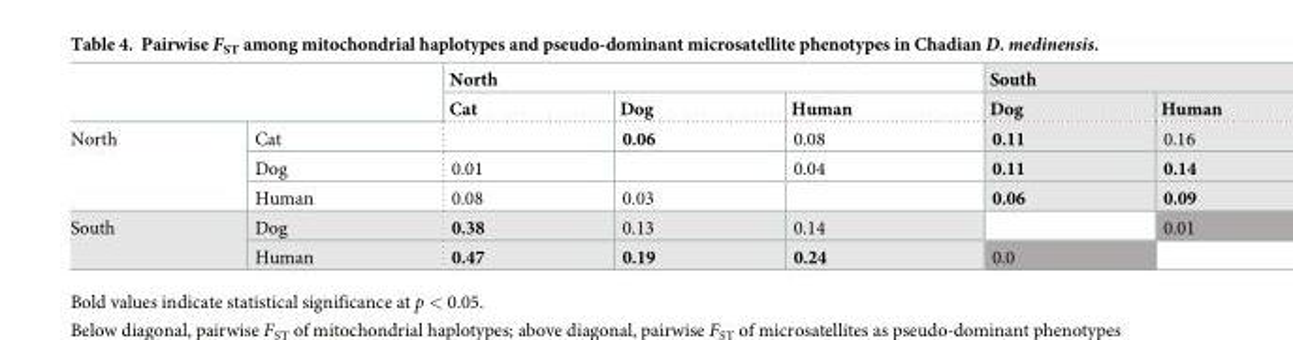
<table><thead><tr><td rowspan="2"></td><td rowspan="2"></td><td colspan="3">North</td><td colspan="2">South</td></tr><tr><td>Cat</td><td>Dog</td><td>Human</td><td>Dog</td><td>Human</td></tr></thead><tbody><tr><td rowspan="3">North</td><td>Cat</td><td></td><td>0.06</td><td>0.08</td><td>0.11</td><td>0.16</td></tr><tr><td>Dog</td><td>0.01</td><td></td><td>0.04</td><td>0.11</td><td>0.14</td></tr><tr><td>Human</td><td>0.08</td><td>0.03</td><td></td><td>0.06</td><td>0.09</td></tr><tr><td rowspan="2">South</td><td>Dog</td><td>0.38</td><td>0.13</td><td>0.14</td><td></td><td>0.01</td></tr><tr><td>Human</td><td>0.47</td><td>0.19</td><td>0.24</td><td>0.0</td><td></td></tr></tbody></table>